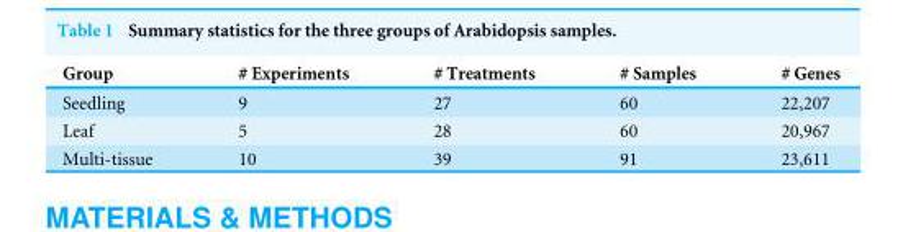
<table><thead><tr><td>Group</td><td># Experiments</td><td># Treatments</td><td># Samples</td><td># Genes</td></tr></thead><tbody><tr><td>Seedling</td><td>9</td><td>27</td><td>60</td><td>22,207</td></tr><tr><td>Leaf</td><td>5</td><td>28</td><td>60</td><td>20,967</td></tr><tr><td>Multi-tissue</td><td>10</td><td>39</td><td>91</td><td>23,611</td></tr></tbody></table>